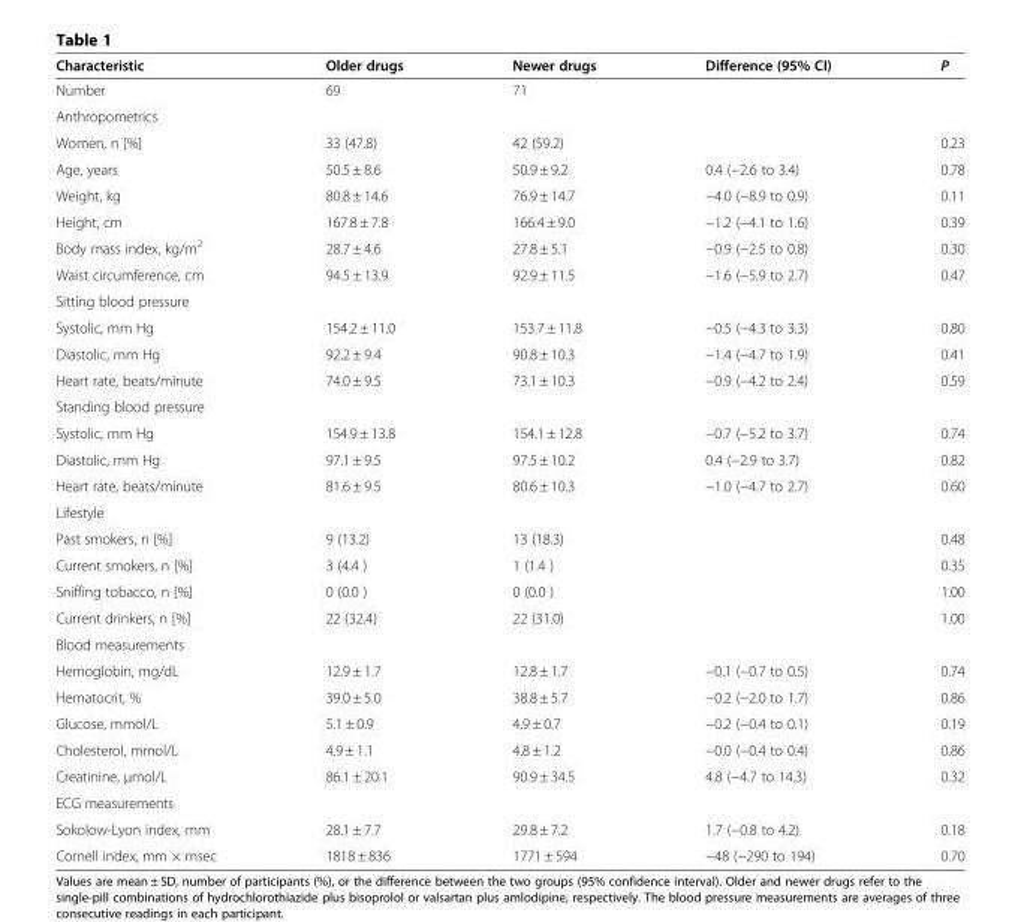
<table><thead><tr><td>Characteristic</td><td>Older drugs</td><td>Newer drugs</td><td>Difference (95% CI)</td><td>P</td></tr></thead><tbody><tr><td>Number</td><td>69</td><td>71</td><td></td><td></td></tr><tr><td colspan="5">Anthropometrics</td></tr><tr><td>Women, n [%]</td><td>33 (47.8)</td><td>42 (59.2)</td><td></td><td>0.23</td></tr><tr><td>Age, years</td><td>50.5 ± 8.6</td><td>50.9 ± 9.2</td><td>0.4 (−2.6 to 3.4)</td><td>0.78</td></tr><tr><td>Weight, kg</td><td>80.8 ± 14.6</td><td>76.9 ± 14.7</td><td>−4.0 (−8.9 to 0.9)</td><td>0.11</td></tr><tr><td>Height, cm</td><td>167.8 ± 7.8</td><td>166.4 ± 9.0</td><td>−1.2 (−4.1 to 1.6)</td><td>0.39</td></tr><tr><td>Body mass index, kg/m<sup>2</sup></td><td>28.7 ± 4.6</td><td>27.8 ± 5.1</td><td>−0.9 (−2.5 to 0.8)</td><td>0.30</td></tr><tr><td>Waist circumference, cm</td><td>94.5 ± 13.9</td><td>92.9 ± 11.5</td><td>−1.6 (−5.9 to 2.7)</td><td>0.47</td></tr><tr><td colspan="5">Sitting blood pressure</td></tr><tr><td>Systolic, mm Hg</td><td>154.2 ± 11.0</td><td>153.7 ± 11.8</td><td>−0.5 (−4.3 to 3.3)</td><td>0.80</td></tr><tr><td>Diastolic, mm Hg</td><td>92.2 ± 9.4</td><td>90.8 ± 10.3</td><td>−1.4 (−4.7 to 1.9)</td><td>0.41</td></tr><tr><td>Heart rate, beats/minute</td><td>74.0 ± 9.5</td><td>73.1 ± 10.3</td><td>−0.9 (−4.2 to 2.4)</td><td>0.59</td></tr><tr><td colspan="5">Standing blood pressure</td></tr><tr><td>Systolic, mm Hg</td><td>154.9 ± 13.8</td><td>154.1 ± 12.8</td><td>−0.7 (−5.2 to 3.7)</td><td>0.74</td></tr><tr><td>Diastolic, mm Hg</td><td>97.1 ± 9.5</td><td>97.5 ± 10.2</td><td>0.4 (−2.9 to 3.7)</td><td>0.82</td></tr><tr><td>Heart rate, beats/minute</td><td>81.6 ± 9.5</td><td>80.6 ± 10.3</td><td>−1.0 (−4.7 to 2.7)</td><td>0.60</td></tr><tr><td colspan="5">Lifestyle</td></tr><tr><td>Past smokers, n [%]</td><td>9 (13.2)</td><td>13 (18.3)</td><td></td><td>0.48</td></tr><tr><td>Current smokers, n [%]</td><td>3 (4.4 )</td><td>1 (1.4 )</td><td></td><td>0.35</td></tr><tr><td>Sniffing tobacco, n [%]</td><td>0 (0.0 )</td><td>0 (0.0 )</td><td></td><td>1.00</td></tr><tr><td>Current drinkers, n [%]</td><td>22 (32.4)</td><td>22 (31.0)</td><td></td><td>1.00</td></tr><tr><td colspan="5">Blood measurements</td></tr><tr><td>Hemoglobin, mg/dL</td><td>12.9 ± 1.7</td><td>12.8 ± 1.7</td><td>−0.1 (−0.7 to 0.5)</td><td>0.74</td></tr><tr><td>Hematocrit, %</td><td>39.0 ± 5.0</td><td>38.8 ± 5.7</td><td>−0.2 (−2.0 to 1.7)</td><td>0.86</td></tr><tr><td>Glucose, mmol/L</td><td>5.1 ± 0.9</td><td>4.9 ± 0.7</td><td>−0.2 (−0.4 to 0.1)</td><td>0.19</td></tr><tr><td>Cholesterol, mmol/L</td><td>4.9 ± 1.1</td><td>4.8 ± 1.2</td><td>−0.0 (−0.4 to 0.4)</td><td>0.86</td></tr><tr><td>Creatinine, μmol/L</td><td>86.1 ± 20.1</td><td>90.9 ± 34.5</td><td>4.8 (−4.7 to 14.3)</td><td>0.32</td></tr><tr><td colspan="5">ECG measurements</td></tr><tr><td>Sokolow-Lyon index, mm</td><td>28.1 ± 7.7</td><td>29.8 ± 7.2</td><td>1.7 (−0.8 to 4.2)</td><td>0.18</td></tr><tr><td>Cornell index, mm × msec</td><td>1818 ± 836</td><td>1771 ± 594</td><td>−48 (−290 to 194)</td><td>0.70</td></tr></tbody></table>